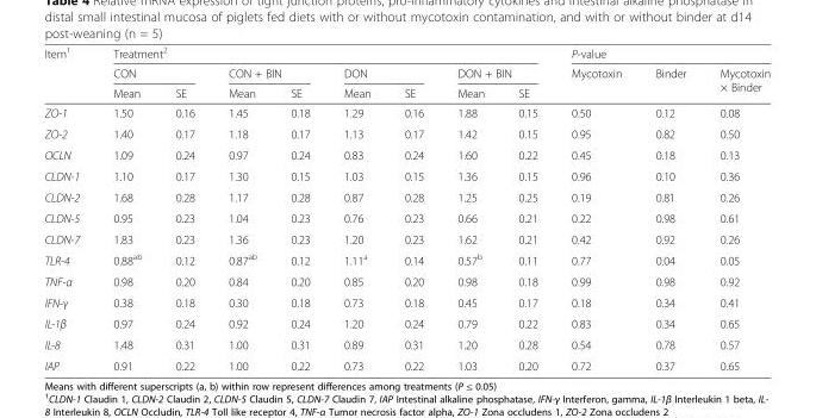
<table><thead><tr><td rowspan="3">Item<sup>1</sup></td><td colspan="8">Treatment<sup>2</sup></td><td colspan="3">P-value</td></tr><tr><td colspan="2">CON</td><td colspan="2">CON + BIN</td><td colspan="2">DON</td><td colspan="2">DON + BIN</td><td rowspan="2">Mycotoxin</td><td rowspan="2">Binder</td><td rowspan="2">Mycotoxin × Binder</td></tr><tr><td>Mean</td><td>SE</td><td>Mean</td><td>SE</td><td>Mean</td><td>SE</td><td>Mean</td><td>SE</td></tr></thead><tbody><tr><td>ZO-1</td><td>1.50</td><td>0.16</td><td>1.45</td><td>0.18</td><td>1.29</td><td>0.16</td><td>1.88</td><td>0.15</td><td>0.50</td><td>0.12</td><td>0.08</td></tr><tr><td>ZO-2</td><td>1.40</td><td>0.17</td><td>1.18</td><td>0.17</td><td>1.13</td><td>0.17</td><td>1.42</td><td>0.15</td><td>0.95</td><td>0.82</td><td>0.50</td></tr><tr><td>OCLN</td><td>1.09</td><td>0.24</td><td>0.97</td><td>0.24</td><td>0.83</td><td>0.24</td><td>1.60</td><td>0.22</td><td>0.45</td><td>0.18</td><td>0.13</td></tr><tr><td>CLDN-1</td><td>1.10</td><td>0.17</td><td>1.30</td><td>0.15</td><td>1.03</td><td>0.15</td><td>1.36</td><td>0.15</td><td>0.96</td><td>0.10</td><td>0.36</td></tr><tr><td>CLDN-2</td><td>1.68</td><td>0.28</td><td>1.17</td><td>0.28</td><td>0.87</td><td>0.28</td><td>1.25</td><td>0.25</td><td>0.19</td><td>0.81</td><td>0.26</td></tr><tr><td>CLDN-5</td><td>0.95</td><td>0.23</td><td>1.04</td><td>0.23</td><td>0.76</td><td>0.23</td><td>0.66</td><td>0.21</td><td>0.22</td><td>0.98</td><td>0.61</td></tr><tr><td>CLDN-7</td><td>1.83</td><td>0.23</td><td>1.36</td><td>0.23</td><td>1.20</td><td>0.23</td><td>1.62</td><td>0.21</td><td>0.42</td><td>0.92</td><td>0.26</td></tr><tr><td>TLR-4</td><td>0.88<sup>ab</sup></td><td>0.12</td><td>0.87<sup>ab</sup></td><td>0.12</td><td>1.11<sup>a</sup></td><td>0.14</td><td>0.57<sup>b</sup></td><td>0.11</td><td>0.77</td><td>0.04</td><td>0.05</td></tr><tr><td>TNF-α</td><td>0.98</td><td>0.20</td><td>0.84</td><td>0.20</td><td>0.85</td><td>0.20</td><td>0.98</td><td>0.18</td><td>0.99</td><td>0.98</td><td>0.92</td></tr><tr><td>IFN-γ</td><td>0.38</td><td>0.18</td><td>0.30</td><td>0.18</td><td>0.73</td><td>0.18</td><td>0.45</td><td>0.17</td><td>0.18</td><td>0.34</td><td>0.41</td></tr><tr><td>IL-1β</td><td>0.97</td><td>0.24</td><td>0.92</td><td>0.24</td><td>1.20</td><td>0.24</td><td>0.79</td><td>0.22</td><td>0.83</td><td>0.34</td><td>0.65</td></tr><tr><td>IL-8</td><td>1.48</td><td>0.31</td><td>1.00</td><td>0.31</td><td>0.89</td><td>0.31</td><td>1.20</td><td>0.28</td><td>0.54</td><td>0.78</td><td>0.57</td></tr><tr><td>IAP</td><td>0.91</td><td>0.22</td><td>1.00</td><td>0.22</td><td>0.73</td><td>0.22</td><td>1.03</td><td>0.20</td><td>0.72</td><td>0.37</td><td>0.65</td></tr></tbody></table>